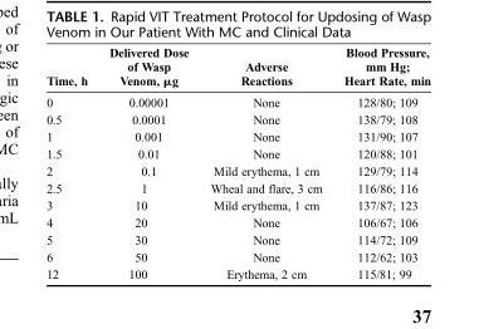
<table><thead><tr><td>Time, h</td><td>Delivered Dose of Wasp Venom, μg</td><td>Adverse Reactions</td><td>Blood Pressure, mm Hg; Heart Rate, min</td></tr></thead><tbody><tr><td>0</td><td>0.00001</td><td>None</td><td>128/80; 109</td></tr><tr><td>0.5</td><td>0.0001</td><td>None</td><td>138/79; 108</td></tr><tr><td>1</td><td>0.001</td><td>None</td><td>131/90; 107</td></tr><tr><td>1.5</td><td>0.01</td><td>None</td><td>120/88; 101</td></tr><tr><td>2</td><td>0.1</td><td>Mild erythema, 1 cm</td><td>129/79; 114</td></tr><tr><td>2.5</td><td>1</td><td>Wheal and flare, 3 cm</td><td>116/86; 116</td></tr><tr><td>3</td><td>10</td><td>Mild erythema, 1 cm</td><td>137/87; 123</td></tr><tr><td>4</td><td>20</td><td>None</td><td>106/67; 106</td></tr><tr><td>5</td><td>30</td><td>None</td><td>114/72; 109</td></tr><tr><td>6</td><td>50</td><td>None</td><td>112/62; 103</td></tr><tr><td>12</td><td>100</td><td>Erythema, 2 cm</td><td>115/81; 99</td></tr></tbody></table>